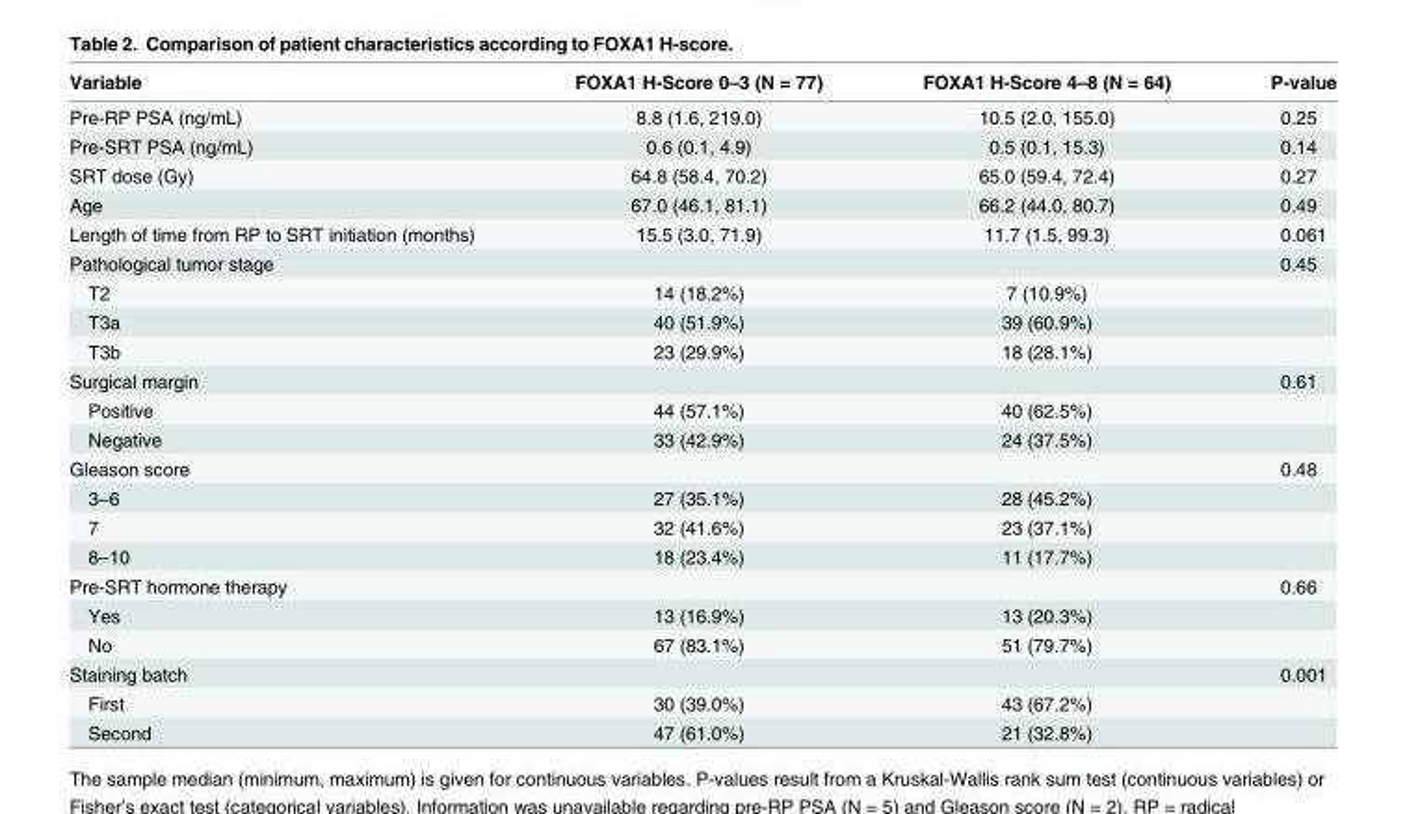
<table><thead><tr><td>Variable</td><td>FOXA1 H-Score 0–3 (N = 77)</td><td>FOXA1 H-Score 4–8 (N = 64)</td><td>P-value</td></tr></thead><tbody><tr><td>Pre-RP PSA (ng/mL)</td><td>8.8 (1.6, 219.0)</td><td>10.5 (2.0, 155.0)</td><td>0.25</td></tr><tr><td>Pre-SRT PSA (ng/mL)</td><td>0.6 (0.1, 4.9)</td><td>0.5 (0.1, 15.3)</td><td>0.14</td></tr><tr><td>SRT dose (Gy)</td><td>64.8 (58.4, 70.2)</td><td>65.0 (59.4, 72.4)</td><td>0.27</td></tr><tr><td>Age</td><td>67.0 (46.1, 81.1)</td><td>66.2 (44.0, 80.7)</td><td>0.49</td></tr><tr><td>Length of time from RP to SRT initiation (months)</td><td>15.5 (3.0, 71.9)</td><td>11.7 (1.5, 99.3)</td><td>0.061</td></tr><tr><td>Pathological tumor stage</td><td></td><td></td><td>0.45</td></tr><tr><td>T2</td><td>14 (18.2%)</td><td>7 (10.9%)</td><td></td></tr><tr><td>T3a</td><td>40 (51.9%)</td><td>39 (60.9%)</td><td></td></tr><tr><td>T3b</td><td>23 (29.9%)</td><td>18 (28.1%)</td><td></td></tr><tr><td>Surgical margin</td><td></td><td></td><td>0.61</td></tr><tr><td>Positive</td><td>44 (57.1%)</td><td>40 (62.5%)</td><td></td></tr><tr><td>Negative</td><td>33 (42.9%)</td><td>24 (37.5%)</td><td></td></tr><tr><td>Gleason score</td><td></td><td></td><td>0.48</td></tr><tr><td>3–6</td><td>27 (35.1%)</td><td>28 (45.2%)</td><td></td></tr><tr><td>7</td><td>32 (41.6%)</td><td>23 (37.1%)</td><td></td></tr><tr><td>8–10</td><td>18 (23.4%)</td><td>11 (17.7%)</td><td></td></tr><tr><td>Pre-SRT hormone therapy</td><td></td><td></td><td>0.66</td></tr><tr><td>Yes</td><td>13 (16.9%)</td><td>13 (20.3%)</td><td></td></tr><tr><td>No</td><td>67 (83.1%)</td><td>51 (79.7%)</td><td></td></tr><tr><td>Staining batch</td><td></td><td></td><td>0.001</td></tr><tr><td>First</td><td>30 (39.0%)</td><td>43 (67.2%)</td><td></td></tr><tr><td>Second</td><td>47 (61.0%)</td><td>21 (32.8%)</td><td></td></tr></tbody></table>